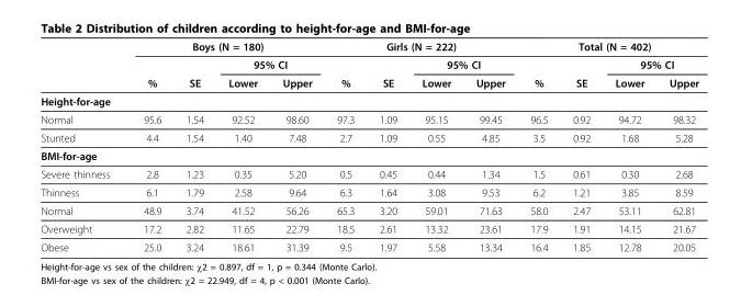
<table><thead><tr><td rowspan="3"></td><td colspan="4">Boys (N = 180)</td><td colspan="4">Girls (N = 222)</td><td colspan="4">Total (N = 402)</td></tr><tr><td rowspan="2">%</td><td rowspan="2">SE</td><td colspan="2">95% CI</td><td rowspan="2">%</td><td rowspan="2">SE</td><td colspan="2">95% CI</td><td rowspan="2">%</td><td rowspan="2">SE</td><td colspan="2">95% CI</td></tr><tr><td>Lower</td><td>Upper</td><td>Lower</td><td>Upper</td><td>Lower</td><td>Upper</td></tr></thead><tbody><tr><td colspan="13">Height-for-age</td></tr><tr><td>Normal</td><td>95.6</td><td>1.54</td><td>92.52</td><td>98.60</td><td>97.3</td><td>1.09</td><td>95.15</td><td>99.45</td><td>96.5</td><td>0.92</td><td>94.72</td><td>98.32</td></tr><tr><td>Stunted</td><td>4.4</td><td>1.54</td><td>1.40</td><td>7.48</td><td>2.7</td><td>1.09</td><td>0.55</td><td>4.85</td><td>3.5</td><td>0.92</td><td>1.68</td><td>5.28</td></tr><tr><td colspan="13">BMI-for-age</td></tr><tr><td>Severe thinness</td><td>2.8</td><td>1.23</td><td>0.35</td><td>5.20</td><td>0.5</td><td>0.45</td><td>0.44</td><td>1.34</td><td>1.5</td><td>0.61</td><td>0.30</td><td>2.68</td></tr><tr><td>Thinness</td><td>6.1</td><td>1.79</td><td>2.58</td><td>9.64</td><td>6.3</td><td>1.64</td><td>3.08</td><td>9.53</td><td>6.2</td><td>1.21</td><td>3.85</td><td>8.59</td></tr><tr><td>Normal</td><td>48.9</td><td>3.74</td><td>41.52</td><td>56.26</td><td>65.3</td><td>3.20</td><td>59.01</td><td>71.63</td><td>58.0</td><td>2.47</td><td>53.11</td><td>62.81</td></tr><tr><td>Overweight</td><td>17.2</td><td>2.82</td><td>11.65</td><td>22.79</td><td>18.5</td><td>2.61</td><td>13.32</td><td>23.61</td><td>17.9</td><td>1.91</td><td>14.15</td><td>21.67</td></tr><tr><td>Obese</td><td>25.0</td><td>3.24</td><td>18.61</td><td>31.39</td><td>9.5</td><td>1.97</td><td>5.58</td><td>13.34</td><td>16.4</td><td>1.85</td><td>12.78</td><td>20.05</td></tr></tbody></table>